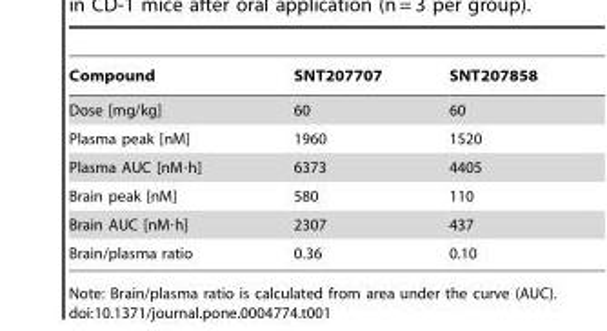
<table><thead><tr><td>Compound</td><td>SNT207707</td><td>SNT207858</td></tr></thead><tbody><tr><td>Dose [mg/kg]</td><td>60</td><td>60</td></tr><tr><td>Plasma peak [nM]</td><td>1960</td><td>1520</td></tr><tr><td>Plasma AUC [nM·h]</td><td>6373</td><td>4405</td></tr><tr><td>Brain peak [nM]</td><td>580</td><td>110</td></tr><tr><td>Brain AUC [nM·h]</td><td>2307</td><td>437</td></tr><tr><td>Brain/plasma ratio</td><td>0.36</td><td>0.10</td></tr></tbody></table>